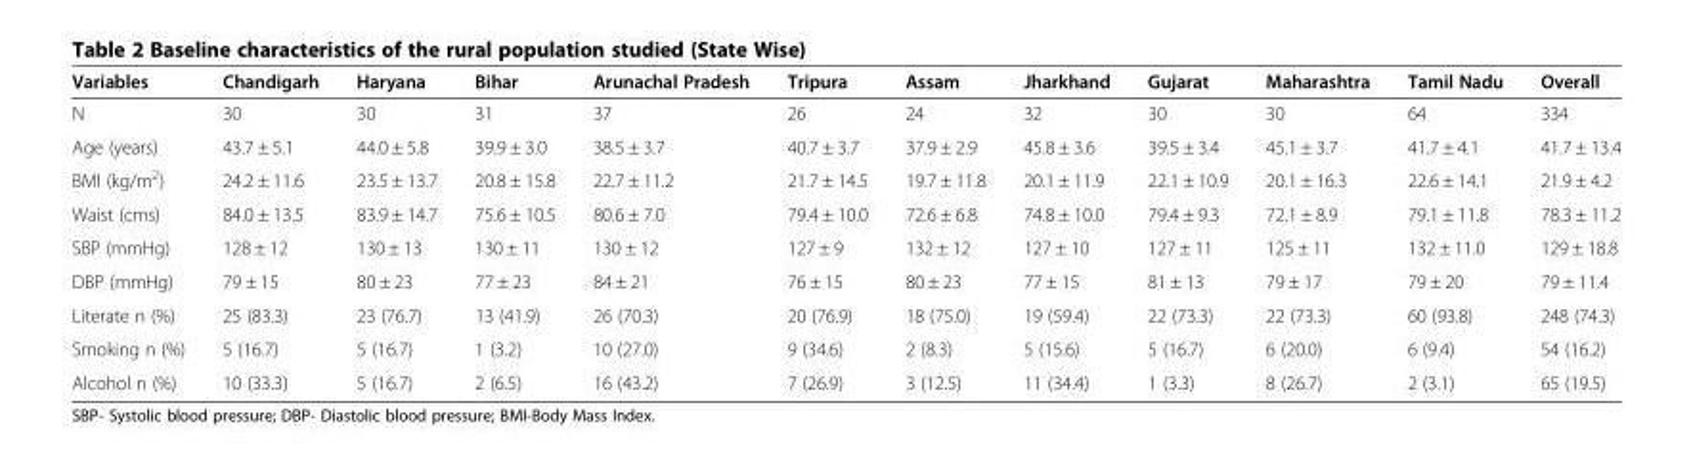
<table><thead><tr><td>Variables</td><td>Chandigarh</td><td>Haryana</td><td>Bihar</td><td>Arunachal Pradesh</td><td>Tripura</td><td>Assam</td><td>Jharkhand</td><td>Gujarat</td><td>Maharashtra</td><td>Tamil Nadu</td><td>Overall</td></tr></thead><tbody><tr><td>N</td><td>30</td><td>30</td><td>31</td><td>37</td><td>26</td><td>24</td><td>32</td><td>30</td><td>30</td><td>64</td><td>334</td></tr><tr><td>Age (years)</td><td>43.7 ± 5.1</td><td>44.0 ± 5.8</td><td>39.9 ± 3.0</td><td>38.5 ± 3.7</td><td>40.7 ± 3.7</td><td>37.9 ± 2.9</td><td>45.8 ± 3.6</td><td>39.5 ± 3.4</td><td>45.1 ± 3.7</td><td>41.7 ± 4.1</td><td>41.7 ± 13.4</td></tr><tr><td>BMI (kg/m<sup>2</sup>)</td><td>24.2 ± 11.6</td><td>23.5 ± 13.7</td><td>20.8 ± 15.8</td><td>22.7 ± 11.2</td><td>21.7 ± 14.5</td><td>19.7 ± 11.8</td><td>20.1 ± 11.9</td><td>22.1 ± 10.9</td><td>20.1 ± 16.3</td><td>22.6 ± 14.1</td><td>21.9 ± 4.2</td></tr><tr><td>Waist (cms)</td><td>84.0 ± 13.5</td><td>83.9 ± 14.7</td><td>75.6 ± 10.5</td><td>80.6 ± 7.0</td><td>79.4 ± 10.0</td><td>72.6 ± 6.8</td><td>74.8 ± 10.0</td><td>79.4 ± 9.3</td><td>72.1 ± 8.9</td><td>79.1 ± 11.8</td><td>78.3 ± 11.2</td></tr><tr><td>SBP (mmHg)</td><td>128 ± 12</td><td>130 ± 13</td><td>130 ± 11</td><td>130 ± 12</td><td>127 ± 9</td><td>132 ± 12</td><td>127 ± 10</td><td>127 ± 11</td><td>125 ± 11</td><td>132 ± 11.0</td><td>129 ± 18.8</td></tr><tr><td>DBP (mmHg)</td><td>79 ± 15</td><td>80 ± 23</td><td>77 ± 23</td><td>84 ± 21</td><td>76 ± 15</td><td>80 ± 23</td><td>77 ± 15</td><td>81 ± 13</td><td>79 ± 17</td><td>79 ± 20</td><td>79 ± 11.4</td></tr><tr><td>Literate n (%)</td><td>25 (83.3)</td><td>23 (76.7)</td><td>13 (41.9)</td><td>26 (70.3)</td><td>20 (76.9)</td><td>18 (75.0)</td><td>19 (59.4)</td><td>22 (73.3)</td><td>22 (73.3)</td><td>60 (93.8)</td><td>248 (74.3)</td></tr><tr><td>Smoking n (%)</td><td>5 (16.7)</td><td>5 (16.7)</td><td>1 (3.2)</td><td>10 (27.0)</td><td>9 (34.6)</td><td>2 (8.3)</td><td>5 (15.6)</td><td>5 (16.7)</td><td>6 (20.0)</td><td>6 (9.4)</td><td>54 (16.2)</td></tr><tr><td>Alcohol n (%)</td><td>10 (33.3)</td><td>5 (16.7)</td><td>2 (6.5)</td><td>16 (43.2)</td><td>7 (26.9)</td><td>3 (12.5)</td><td>11 (34.4)</td><td>1 (3.3)</td><td>8 (26.7)</td><td>2 (3.1)</td><td>65 (19.5)</td></tr></tbody></table>